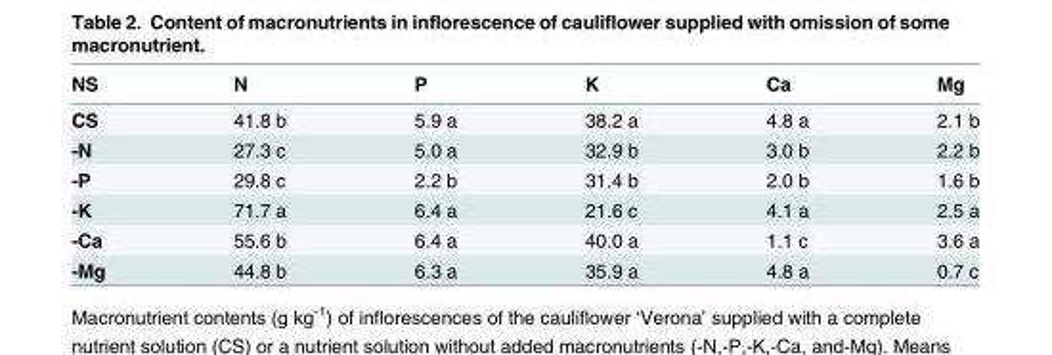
<table><thead><tr><td>NS</td><td>N</td><td>P</td><td>K</td><td>Ca</td><td>Mg</td></tr></thead><tbody><tr><td>CS</td><td>41.8 b</td><td>5.9 a</td><td>38.2 a</td><td>4.8 a</td><td>2.1 b</td></tr><tr><td>-N</td><td>27.3 c</td><td>5.0 a</td><td>32.9 b</td><td>3.0 b</td><td>2.2 b</td></tr><tr><td>-P</td><td>29.8 c</td><td>2.2 b</td><td>31.4 b</td><td>2.0 b</td><td>1.6 b</td></tr><tr><td>-K</td><td>71.7 a</td><td>6.4 a</td><td>21.6 c</td><td>4.1 a</td><td>2.5 a</td></tr><tr><td>-Ca</td><td>55.6 b</td><td>6.4 a</td><td>40.0 a</td><td>1.1 c</td><td>3.6 a</td></tr><tr><td>-Mg</td><td>44.8 b</td><td>6.3 a</td><td>35.9 a</td><td>4.8 a</td><td>0.7 c</td></tr></tbody></table>